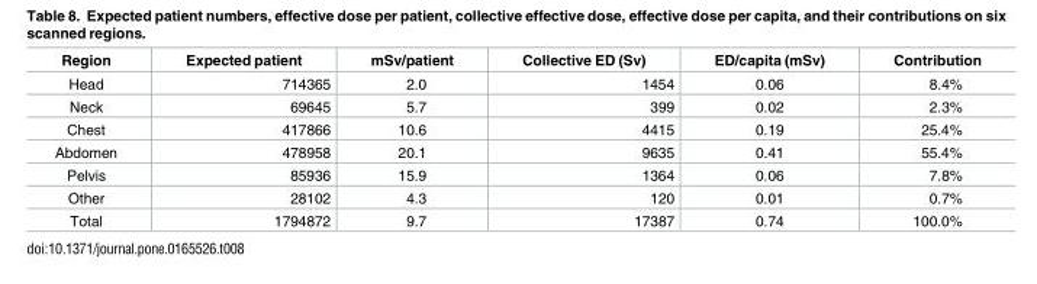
<table><thead><tr><td>Region</td><td>Expected patient</td><td>mSv/patient</td><td>Collective ED (Sv)</td><td>ED/capita (mSv)</td><td>Contribution</td></tr></thead><tbody><tr><td>Head</td><td>714365</td><td>2.0</td><td>1454</td><td>0.06</td><td>8.4%</td></tr><tr><td>Neck</td><td>69645</td><td>5.7</td><td>399</td><td>0.02</td><td>2.3%</td></tr><tr><td>Chest</td><td>417866</td><td>10.6</td><td>4415</td><td>0.19</td><td>25.4%</td></tr><tr><td>Abdomen</td><td>478958</td><td>20.1</td><td>9635</td><td>0.41</td><td>55.4%</td></tr><tr><td>Pelvis</td><td>85936</td><td>15.9</td><td>1364</td><td>0.06</td><td>7.8%</td></tr><tr><td>Other</td><td>28102</td><td>4.3</td><td>120</td><td>0.01</td><td>0.7%</td></tr><tr><td>Total</td><td>1794872</td><td>9.7</td><td>17387</td><td>0.74</td><td>100.0%</td></tr></tbody></table>